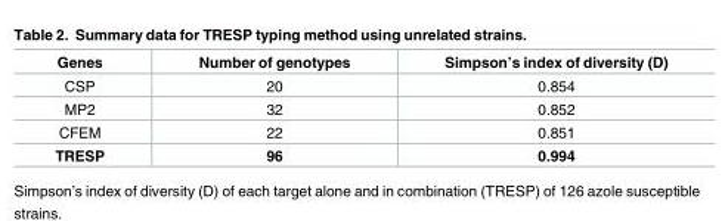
<table><thead><tr><td>Genes</td><td>Number of genotypes</td><td>Simpson’s index of diversity (D)</td></tr></thead><tbody><tr><td>CSP</td><td>20</td><td>0.854</td></tr><tr><td>MP2</td><td>32</td><td>0.852</td></tr><tr><td>CFEM</td><td>22</td><td>0.851</td></tr><tr><td>TRESP</td><td>96</td><td>0.994</td></tr></tbody></table>